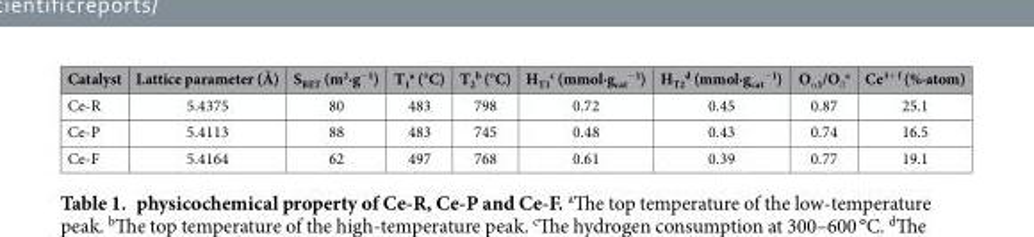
<table><thead><tr><td>Catalyst</td><td>Lattice parameter (Å)</td><td>S<sub>BET</sub> (m<sup>2</sup>·g<sup>−1</sup>)</td><td>T<sub>1</sub> <sup>a</sup> (°C)</td><td>T<sub>2</sub> <sup>b</sup> (°C)</td><td>H<sub>T1</sub> <sup>c</sup> (mmol·g<sub>cat</sub> <sup>−1</sup>)</td><td>H<sub>T2</sub> <sup>d</sup> (mmol·g<sub>cat</sub> <sup>−1</sup>)</td><td>O<sub>α1</sub>/O<sub>β</sub> <sup>e</sup></td><td>Ce<sup>3+</sup> f (%·atom)</td></tr></thead><tbody><tr><td>Ce-R</td><td>5.4375</td><td>80</td><td>483</td><td>798</td><td>0.72</td><td>0.45</td><td>0.87</td><td>25.1</td></tr><tr><td>Ce-P</td><td>5.4113</td><td>88</td><td>483</td><td>745</td><td>0.48</td><td>0.43</td><td>0.74</td><td>16.5</td></tr><tr><td>Ce-F</td><td>5.4164</td><td>62</td><td>497</td><td>768</td><td>0.61</td><td>0.39</td><td>0.77</td><td>19.1</td></tr></tbody></table>